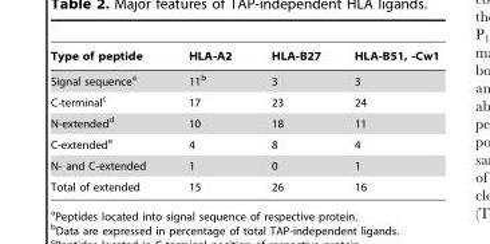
<table><thead><tr><td>Type of peptide</td><td>HLA-A2</td><td>HLA-B27</td><td>HLA-B51, -Cw1</td></tr></thead><tbody><tr><td>Signal sequence<sup>a</sup></td><td>11<sup>b</sup></td><td>3</td><td>3</td></tr><tr><td>C-terminal<sup>c</sup></td><td>17</td><td>23</td><td>24</td></tr><tr><td>N-extended<sup>d</sup></td><td>10</td><td>18</td><td>11</td></tr><tr><td>C-extended<sup>e</sup></td><td>4</td><td>8</td><td>4</td></tr><tr><td>N- and C-extended</td><td>1</td><td>0</td><td>1</td></tr><tr><td>Total of extended</td><td>15</td><td>26</td><td>16</td></tr></tbody></table>